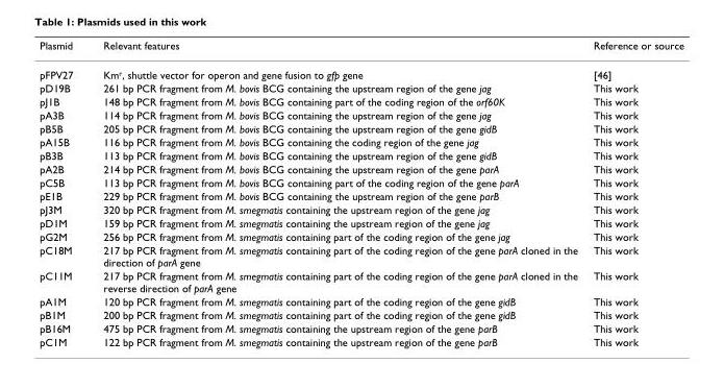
<table><thead><tr><td>Plasmid</td><td>Relevant features</td><td>Reference or source</td></tr></thead><tbody><tr><td>pFPV27</td><td>Km<sup>r</sup>, shuttle vector for operon and gene fusion to gfp gene</td><td>[46]</td></tr><tr><td>pD19B</td><td>261 bp PCR fragment from M. bovis BCG containing the upstream region of the gene jag</td><td>This work</td></tr><tr><td>pJ1B</td><td>148 bp PCR fragment from M. bovis BCG containing part of the coding region of the orf60K</td><td>This work</td></tr><tr><td>pA3B</td><td>114 bp PCR fragment from M. bovis BCG containing the upstream region of the gene jag</td><td>This work</td></tr><tr><td>pB5B</td><td>205 bp PCR fragment from M. bovis BCG containing the upstream region of the gene gidB</td><td>This work</td></tr><tr><td>pA15B</td><td>116 bp PCR fragment from M. bovis BCG containing the coding region of the gene jag</td><td>This work</td></tr><tr><td>pB3B</td><td>113 bp PCR fragment from M. bovis BCG containing the upstream region of the gene gidB</td><td>This work</td></tr><tr><td>pA2B</td><td>214 bp PCR fragment from M. bovis BCG containing the upstream region of the gene parA</td><td>This work</td></tr><tr><td>pC5B</td><td>113 bp PCR fragment from M. bovis BCG containing part of the coding region of the gene parA</td><td>This work</td></tr><tr><td>pE1B</td><td>229 bp PCR fragment from M. bovis BCG containing the upstream region of the gene parB</td><td>This work</td></tr><tr><td>pJ3M</td><td>320 bp PCR fragment from M. smegmatis containing the upstream region of the gene jag</td><td>This work</td></tr><tr><td>pD1M</td><td>159 bp PCR fragment from M. smegmatis containing the upstream region of the gene jag</td><td>This work</td></tr><tr><td>pG2M</td><td>256 bp PCR fragment from M. smegmatis containing part of the coding region of the gene jag</td><td>This work</td></tr><tr><td>pC18M</td><td>217 bp PCR fragment from M. smegmatis containing part of the coding region of the gene parA cloned in the direction of parA gene</td><td>This work</td></tr><tr><td>pC11M</td><td>217 bp PCR fragment from M. smegmatis containing part of the coding region of the gene parA cloned in the reverse direction of parA gene</td><td>This work</td></tr><tr><td>pA1M</td><td>120 bp PCR fragment from M. smegmatis containing part of the coding region of the gene gidB</td><td>This work</td></tr><tr><td>pB1M</td><td>200 bp PCR fragment from M. smegmatis containing part of the coding region of the gene gidB</td><td>This work</td></tr><tr><td>pB16M</td><td>475 bp PCR fragment from M. smegmatis containing the upstream region of the gene parB</td><td>This work</td></tr><tr><td>pC1M</td><td>122 bp PCR fragment from M. smegmatis containing the upstream region of the gene parB</td><td>This work</td></tr></tbody></table>